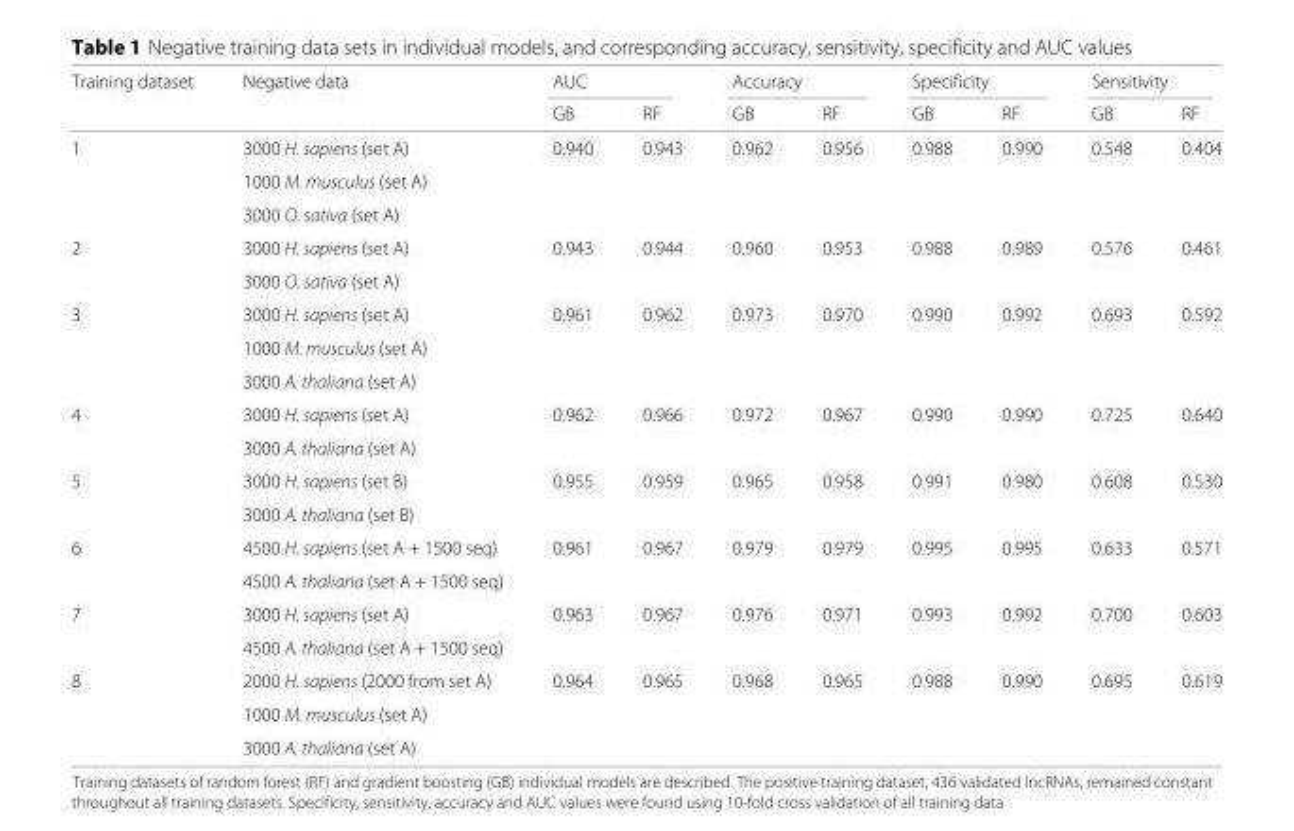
<table><thead><tr><td rowspan="2">Training dataset</td><td rowspan="2">Negative data</td><td colspan="2">AUC</td><td colspan="2">Accuracy</td><td colspan="2">Specificity</td><td colspan="2">Sensitivity</td></tr><tr><td>GB</td><td>RF</td><td>GB</td><td>RF</td><td>GB</td><td>RF</td><td>GB</td><td>RF</td></tr></thead><tbody><tr><td rowspan="3">1</td><td>3000 H. sapiens (set A)</td><td>0.940</td><td>0.943</td><td>0.962</td><td>0.956</td><td>0.988</td><td>0.990</td><td>0.548</td><td>0.404</td></tr><tr><td>1000 M. musculus (set A)</td><td></td><td></td><td></td><td></td><td></td><td></td><td></td><td></td></tr><tr><td>3000 O. sativa (set A)</td><td></td><td></td><td></td><td></td><td></td><td></td><td></td><td></td></tr><tr><td rowspan="2">2</td><td>3000 H. sapiens (set A)</td><td>0.943</td><td>0.944</td><td>0.960</td><td>0.953</td><td>0.988</td><td>0.989</td><td>0.576</td><td>0.461</td></tr><tr><td>3000 O. sativa (set A)</td><td></td><td></td><td></td><td></td><td></td><td></td><td></td><td></td></tr><tr><td rowspan="3">3</td><td>3000 H. sapiens (set A)</td><td>0.961</td><td>0.962</td><td>0.973</td><td>0.970</td><td>0.990</td><td>0.992</td><td>0.693</td><td>0.592</td></tr><tr><td>1000 M. musculus (set A)</td><td></td><td></td><td></td><td></td><td></td><td></td><td></td><td></td></tr><tr><td>3000 A. thaliana (set A)</td><td></td><td></td><td></td><td></td><td></td><td></td><td></td><td></td></tr><tr><td rowspan="2">4</td><td>3000 H. sapiens (set A)</td><td>0.962</td><td>0.966</td><td>0.972</td><td>0.967</td><td>0.990</td><td>0.990</td><td>0.725</td><td>0.640</td></tr><tr><td>3000 A. thaliana (set A)</td><td></td><td></td><td></td><td></td><td></td><td></td><td></td><td></td></tr><tr><td rowspan="2">5</td><td>3000 H. sapiens (set B)</td><td>0.955</td><td>0.959</td><td>0.965</td><td>0.958</td><td>0.991</td><td>0.980</td><td>0.608</td><td>0.530</td></tr><tr><td>3000 A. thaliana (set B)</td><td></td><td></td><td></td><td></td><td></td><td></td><td></td><td></td></tr><tr><td rowspan="2">6</td><td>4500 H. sapiens (set A + 1500 seq)</td><td>0.961</td><td>0.967</td><td>0.979</td><td>0.979</td><td>0.995</td><td>0.995</td><td>0.633</td><td>0.571</td></tr><tr><td>4500 A. thaliana (set A + 1500 seq)</td><td></td><td></td><td></td><td></td><td></td><td></td><td></td><td></td></tr><tr><td rowspan="2">7</td><td>3000 H. sapiens (set A)</td><td>0.963</td><td>0.967</td><td>0.976</td><td>0.971</td><td>0.993</td><td>0.992</td><td>0.700</td><td>0.603</td></tr><tr><td>4500 A. thaliana (set A + 1500 seq)</td><td></td><td></td><td></td><td></td><td></td><td></td><td></td><td></td></tr><tr><td rowspan="3">8</td><td>2000 H. sapiens (2000 from set A)</td><td>0.964</td><td>0.965</td><td>0.968</td><td>0.965</td><td>0.988</td><td>0.990</td><td>0.695</td><td>0.619</td></tr><tr><td>1000 M. musculus (set A)</td><td></td><td></td><td></td><td></td><td></td><td></td><td></td><td></td></tr><tr><td>3000 A. thaliana (set A)</td><td></td><td></td><td></td><td></td><td></td><td></td><td></td><td></td></tr></tbody></table>